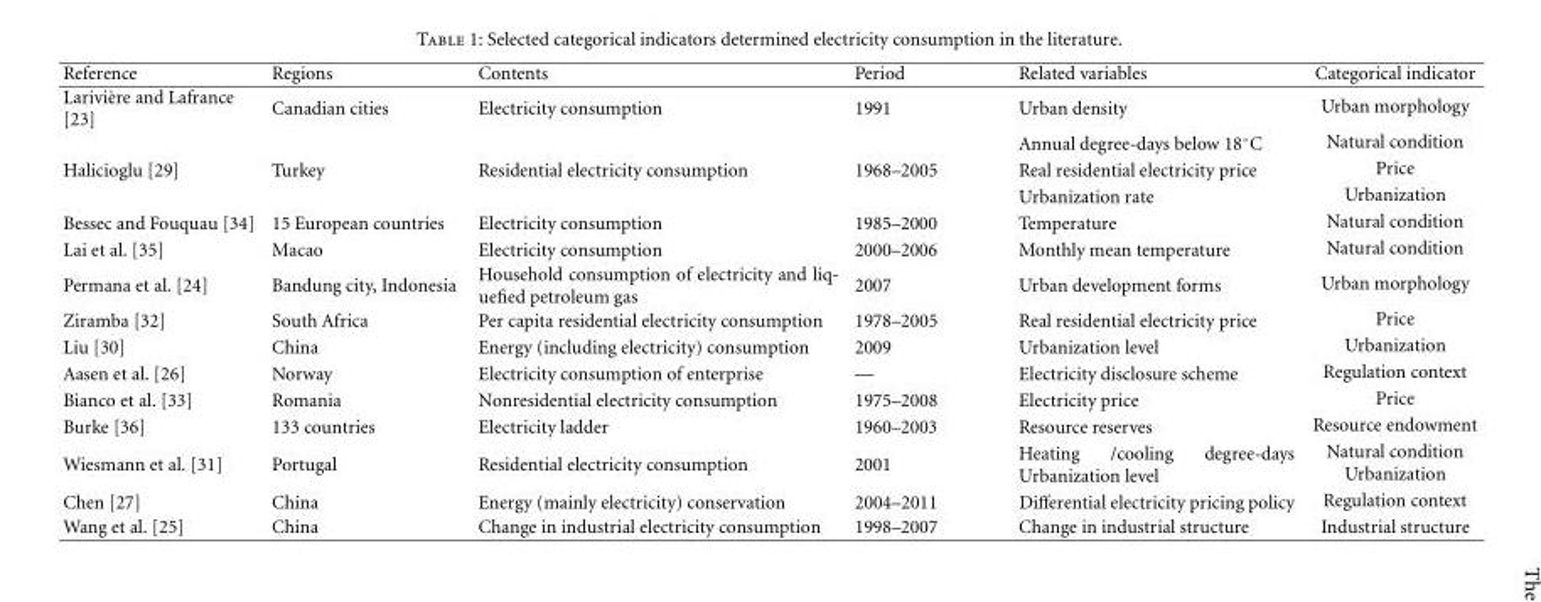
<table><thead><tr><td>Reference</td><td>Regions</td><td>Contents</td><td>Period</td><td>Related variables</td><td>Categorical indicator</td></tr></thead><tbody><tr><td rowspan="2">Larivi`ere and Lafrance [23]</td><td>Canadian cities</td><td>Electricity consumption</td><td>1991</td><td>Urban density</td><td>Urban morphology</td></tr><tr><td></td><td></td><td></td><td>Annual degree-days below 18◦C</td><td>Natural condition</td></tr><tr><td rowspan="2">Halicioglu [29]</td><td>Turkey</td><td>Residential electricity consumption</td><td>1968–2005</td><td>Real residential electricity price</td><td>Price</td></tr><tr><td></td><td></td><td></td><td>Urbanization rate</td><td>Urbanization</td></tr><tr><td>Bessec and Fouquau [34]</td><td>15 European countries</td><td>Electricity consumption</td><td>1985–2000</td><td>Temperature</td><td>Natural condition</td></tr><tr><td>Lai et al. [35]</td><td>Macao</td><td>Electricity consumption</td><td>2000–2006</td><td>Monthly mean temperature</td><td>Natural condition</td></tr><tr><td>Permana et al. [24]</td><td>Bandung city, Indonesia</td><td>Household consumption of electricity and liq- uefied petroleum gas</td><td>2007</td><td>Urban development forms</td><td>Urban morphology</td></tr><tr><td>Ziramba [32]</td><td>South Africa</td><td>Per capita residential electricity consumption</td><td>1978–2005</td><td>Real residential electricity price</td><td>Price</td></tr><tr><td>Liu [30]</td><td>China</td><td>Energy (including electricity) consumption</td><td>2009</td><td>Urbanization level</td><td>Urbanization</td></tr><tr><td>Aasen et al. [26]</td><td>Norway</td><td>Electricity consumption of enterprise</td><td>—</td><td>Electricity disclosure scheme</td><td>Regulation context</td></tr><tr><td>Bianco et al. [33]</td><td>Romania</td><td>Nonresidential electricity consumption</td><td>1975–2008</td><td>Electricity price</td><td>Price</td></tr><tr><td>Burke [36]</td><td>133 countries</td><td>Electricity ladder</td><td>1960–2003</td><td>Resource reserves</td><td>Resource endowment</td></tr><tr><td>Wiesmann et al. [31]</td><td>Portugal</td><td>Residential electricity consumption</td><td>2001</td><td>Heating /cooling degree-days Urbanization level</td><td>Natural condition Urbanization</td></tr><tr><td>Chen [27]</td><td>China</td><td>Energy (mainly electricity) conservation</td><td>2004–2011</td><td>Differential electricity pricing policy</td><td>Regulation context</td></tr><tr><td>Wang et al. [25]</td><td>China</td><td>Change in industrial electricity consumption</td><td>1998–2007</td><td>Change in industrial structure</td><td>Industrial structure</td></tr></tbody></table>